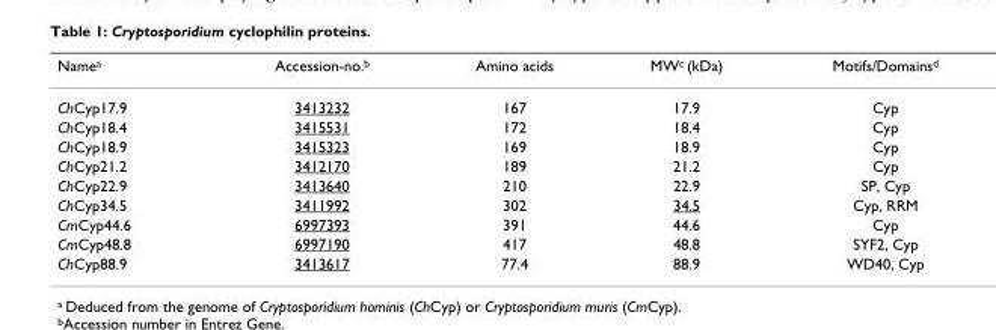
<table><thead><tr><td>Name<sup>a</sup></td><td>Accession-no.<sup>b</sup></td><td>Amino acids</td><td>MW<sup>c</sup> (kDa)</td><td>Motifs/Domains<sup>d</sup></td></tr></thead><tbody><tr><td>ChCyp17.9</td><td>3413232</td><td>167</td><td>17.9</td><td>Cyp</td></tr><tr><td>ChCyp18.4</td><td>3415531</td><td>172</td><td>18.4</td><td>Cyp</td></tr><tr><td>ChCyp18.9</td><td>3415323</td><td>169</td><td>18.9</td><td>Cyp</td></tr><tr><td>ChCyp21.2</td><td>3412170</td><td>189</td><td>21.2</td><td>Cyp</td></tr><tr><td>ChCyp22.9</td><td>3413640</td><td>210</td><td>22.9</td><td>SP, Cyp</td></tr><tr><td>ChCyp34.5</td><td>3411992</td><td>302</td><td>34.5</td><td>Cyp, RRM</td></tr><tr><td>CmCyp44.6</td><td>6997393</td><td>391</td><td>44.6</td><td>Cyp</td></tr><tr><td>CmCyp48.8</td><td>6997190</td><td>417</td><td>48.8</td><td>SYF2, Cyp</td></tr><tr><td>ChCyp88.9</td><td>3413617</td><td>77.4</td><td>88.9</td><td>WD40, Cyp</td></tr></tbody></table>